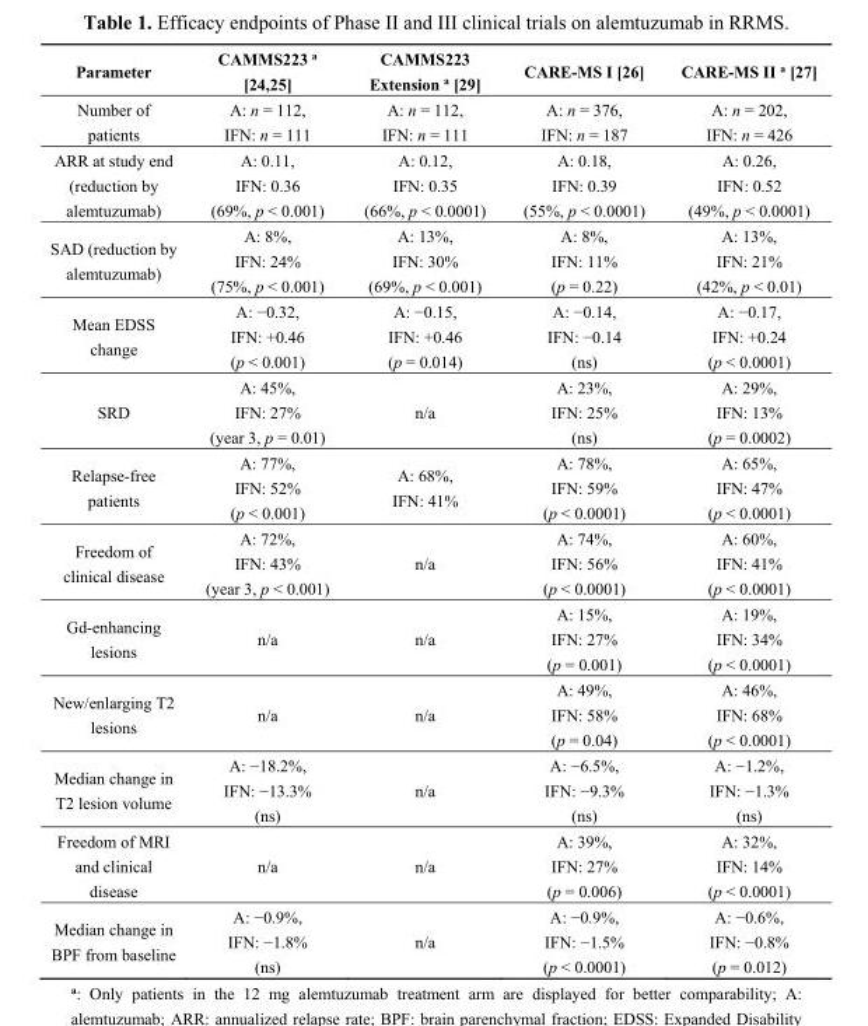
<table><thead><tr><td>Parameter</td><td>CAMMS223 <sup>a</sup> [24,25]</td><td>CAMMS223 Extension <sup>a</sup> [29]</td><td>CARE-MS I [26]</td><td>CARE-MS II <sup>a</sup> [27]</td></tr></thead><tbody><tr><td>Number of patients</td><td>A: n = 112, IFN: n = 111</td><td>A: n = 112, IFN: n = 111</td><td>A: n = 376, IFN: n = 187</td><td>A: n = 202, IFN: n = 426</td></tr><tr><td>ARR at study end (reduction by alemtuzumab)</td><td>A: 0.11, IFN: 0.36 (69%, p &lt; 0.001)</td><td>A: 0.12, IFN: 0.35 (66%, p &lt; 0.0001)</td><td>A: 0.18, IFN: 0.39 (55%, p &lt; 0.0001)</td><td>A: 0.26, IFN: 0.52 (49%, p &lt; 0.0001)</td></tr><tr><td>SAD (reduction by alemtuzumab)</td><td>A: 8%, IFN: 24% (75%, p &lt; 0.001)</td><td>A: 13%, IFN: 30% (69%, p &lt; 0.001)</td><td>A: 8%, IFN: 11% (p = 0.22)</td><td>A: 13%, IFN: 21% (42%, p &lt; 0.01)</td></tr><tr><td>Mean EDSS change</td><td>A: −0.32, IFN: +0.46 (p &lt; 0.001)</td><td>A: −0.15, IFN: +0.46 (p = 0.014)</td><td>A: −0.14, IFN: −0.14 (ns)</td><td>A: −0.17, IFN: +0.24 (p &lt; 0.0001)</td></tr><tr><td>SRD</td><td>A: 45%, IFN: 27% (year 3, p = 0.01)</td><td>n/a</td><td>A: 23%, IFN: 25% (ns)</td><td>A: 29%, IFN: 13% (p = 0.0002)</td></tr><tr><td>Relapse-free patients</td><td>A: 77%, IFN: 52% (p &lt; 0.001)</td><td>A: 68%, IFN: 41%</td><td>A: 78%, IFN: 59% (p &lt; 0.0001)</td><td>A: 65%, IFN: 47% (p &lt; 0.0001)</td></tr><tr><td>Freedom of clinical disease</td><td>A: 72%, IFN: 43% (year 3, p &lt; 0.001)</td><td>n/a</td><td>A: 74%, IFN: 56% (p &lt; 0.0001)</td><td>A: 60%, IFN: 41% (p &lt; 0.0001)</td></tr><tr><td>Gd-enhancing lesions</td><td>n/a</td><td>n/a</td><td>A: 15%, IFN: 27% (p = 0.001)</td><td>A: 19%, IFN: 34% (p &lt; 0.0001)</td></tr><tr><td>New/enlarging T2 lesions</td><td>n/a</td><td>n/a</td><td>A: 49%, IFN: 58% (p = 0.04)</td><td>A: 46%, IFN: 68% (p &lt; 0.0001)</td></tr><tr><td>Median change in T2 lesion volume</td><td>A: −18.2%, IFN: −13.3% (ns)</td><td>n/a</td><td>A: −6.5%, IFN: −9.3% (ns)</td><td>A: −1.2%, IFN: −1.3% (ns)</td></tr><tr><td>Freedom of MRI and clinical disease</td><td>n/a</td><td>n/a</td><td>A: 39%, IFN: 27% (p = 0.006)</td><td>A: 32%, IFN: 14% (p &lt; 0.0001)</td></tr><tr><td>Median change in BPF from baseline</td><td>A: −0.9%, IFN: −1.8% (ns)</td><td>n/a</td><td>A: −0.9%, IFN: −1.5% (p &lt; 0.0001)</td><td>A: −0.6%, IFN: −0.8% (p = 0.012)</td></tr></tbody></table>